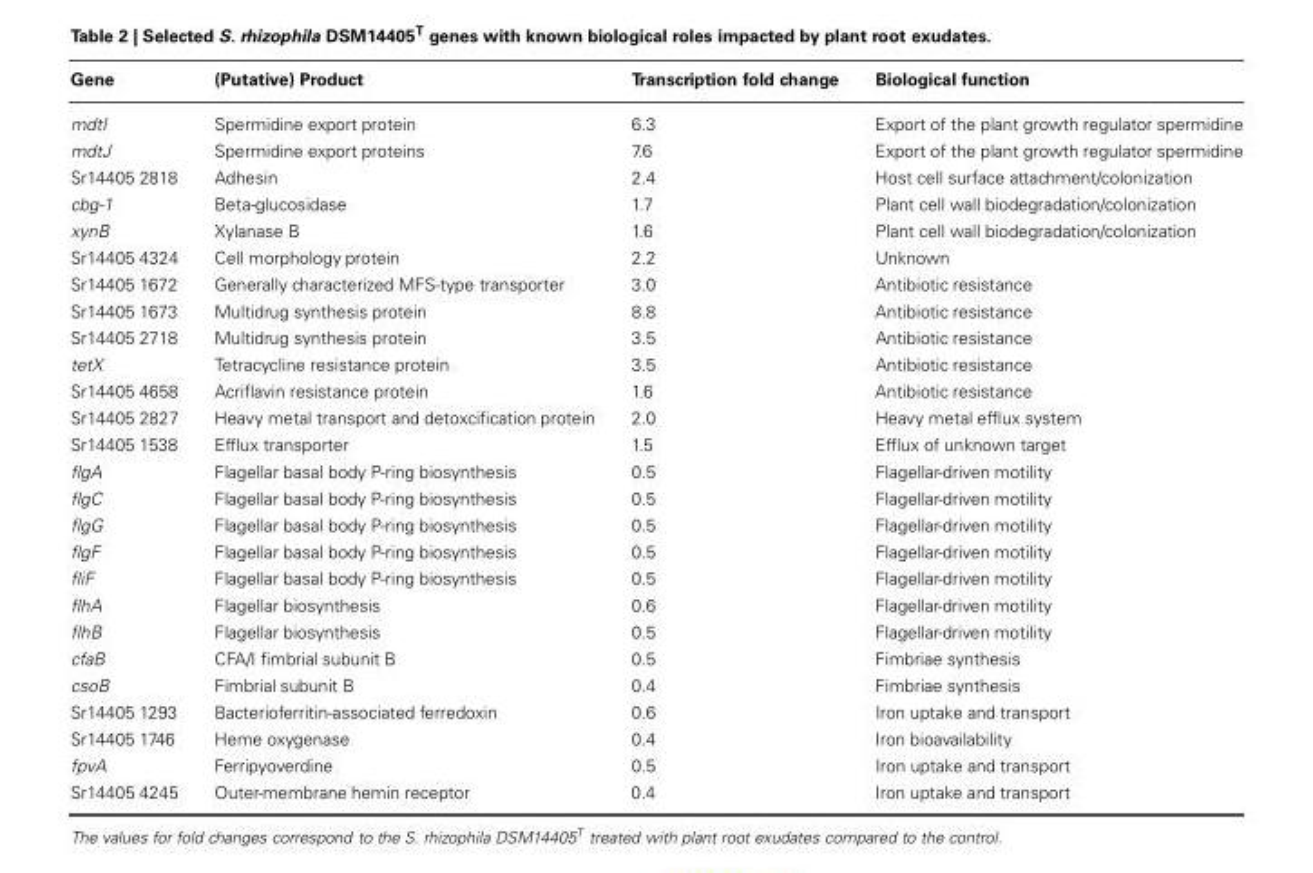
<table><thead><tr><td>Gene</td><td>(Putative) Product</td><td>Transcription fold change</td><td>Biological function</td></tr></thead><tbody><tr><td>mdtI</td><td>Spermidine export protein</td><td>6.3</td><td>Export of the plant growth regulator spermidine</td></tr><tr><td>mdtJ</td><td>Spermidine export proteins</td><td>7.6</td><td>Export of the plant growth regulator spermidine</td></tr><tr><td>Sr14405 2818</td><td>Adhesin</td><td>2.4</td><td>Host cell surface attachment/colonization</td></tr><tr><td>cbg-1</td><td>Beta-glucosidase</td><td>1.7</td><td>Plant cell wall biodegradation/colonization</td></tr><tr><td>xynB</td><td>Xylanase B</td><td>1.6</td><td>Plant cell wall biodegradation/colonization</td></tr><tr><td>Sr14405 4324</td><td>Cell morphology protein</td><td>2.2</td><td>Unknown</td></tr><tr><td>Sr14405 1672</td><td>Generally characterized MFS-type transporter</td><td>3.0</td><td>Antibiotic resistance</td></tr><tr><td>Sr14405 1673</td><td>Multidrug synthesis protein</td><td>8.8</td><td>Antibiotic resistance</td></tr><tr><td>Sr14405 2718</td><td>Multidrug synthesis protein</td><td>3.5</td><td>Antibiotic resistance</td></tr><tr><td>tetX</td><td>Tetracycline resistance protein</td><td>3.5</td><td>Antibiotic resistance</td></tr><tr><td>Sr14405 4658</td><td>Acriflavin resistance protein</td><td>1.6</td><td>Antibiotic resistance</td></tr><tr><td>Sr14405 2827</td><td>Heavy metal transport and detoxcification protein</td><td>2.0</td><td>Heavy metal efflux system</td></tr><tr><td>Sr14405 1538</td><td>Efflux transporter</td><td>1.5</td><td>Efflux of unknown target</td></tr><tr><td>flgA</td><td>Flagellar basal body P-ring biosynthesis</td><td>0.5</td><td>Flagellar-driven motility</td></tr><tr><td>flgC</td><td>Flagellar basal body P-ring biosynthesis</td><td>0.5</td><td>Flagellar-driven motility</td></tr><tr><td>flgG</td><td>Flagellar basal body P-ring biosynthesis</td><td>0.5</td><td>Flagellar-driven motility</td></tr><tr><td>flgF</td><td>Flagellar basal body P-ring biosynthesis</td><td>0.5</td><td>Flagellar-driven motility</td></tr><tr><td>fliF</td><td>Flagellar basal body P-ring biosynthesis</td><td>0.5</td><td>Flagellar-driven motility</td></tr><tr><td>flhA</td><td>Flagellar biosynthesis</td><td>0.6</td><td>Flagellar-driven motility</td></tr><tr><td>flhB</td><td>Flagellar biosynthesis</td><td>0.5</td><td>Flagellar-driven motility</td></tr><tr><td>cfaB</td><td>CFA/I fimbrial subunit B</td><td>0.5</td><td>Fimbriae synthesis</td></tr><tr><td>csoB</td><td>Fimbrial subunit B</td><td>0.4</td><td>Fimbriae synthesis</td></tr><tr><td>Sr14405 1293</td><td>Bacterioferritin-associated ferredoxin</td><td>0.6</td><td>Iron uptake and transport</td></tr><tr><td>Sr14405 1746</td><td>Heme oxygenase</td><td>0.4</td><td>Iron bioavailability</td></tr><tr><td>fpvA</td><td>Ferripyoverdine</td><td>0.5</td><td>Iron uptake and transport</td></tr><tr><td>Sr14405 4245</td><td>Outer-membrane hemin receptor</td><td>0.4</td><td>Iron uptake and transport</td></tr></tbody></table>